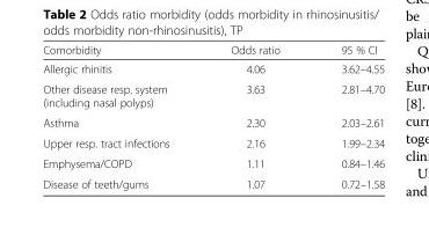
<table><thead><tr><td>Comorbidity</td><td>Odds ratio</td><td>95 % CI</td></tr></thead><tbody><tr><td>Allergic rhinitis</td><td>4.06</td><td>3.62–4.55</td></tr><tr><td>Other disease resp. system (including nasal polyps)</td><td>3.63</td><td>2.81–4.70</td></tr><tr><td>Asthma</td><td>2.30</td><td>2.03–2.61</td></tr><tr><td>Upper resp. tract infections</td><td>2.16</td><td>1.99–2.34</td></tr><tr><td>Emphysema/COPD</td><td>1.11</td><td>0.84–1.46</td></tr><tr><td>Disease of teeth/gums</td><td>1.07</td><td>0.72–1.58</td></tr></tbody></table>